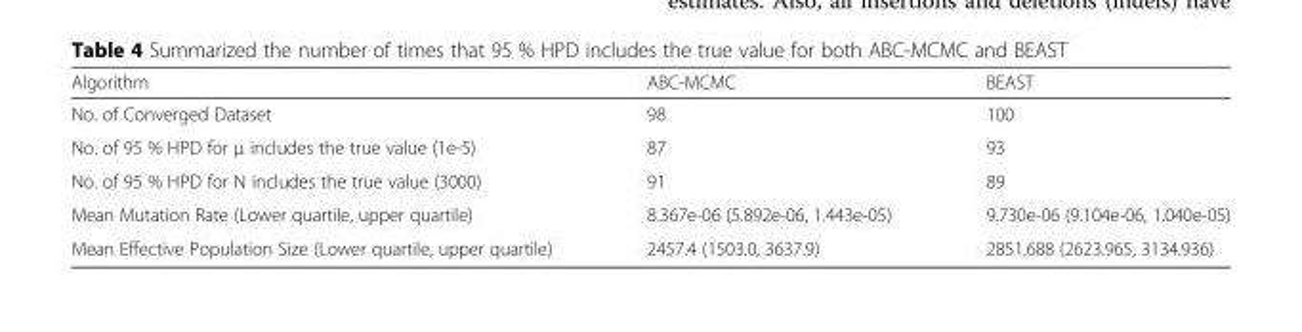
<table><thead><tr><td>Algorithm</td><td>ABC-MCMC</td><td>BEAST</td></tr></thead><tbody><tr><td>No. of Converged Dataset</td><td>98</td><td>100</td></tr><tr><td>No. of 95 % HPD for μ includes the true value (1e-5)</td><td>87</td><td>93</td></tr><tr><td>No. of 95 % HPD for N includes the true value (3000)</td><td>91</td><td>89</td></tr><tr><td>Mean Mutation Rate (Lower quartile, upper quartile)</td><td>8.367e-06 (5.892e-06, 1.443e-05)</td><td>9.730e-06 (9.104e-06, 1.040e-05)</td></tr><tr><td>Mean Effective Population Size (Lower quartile, upper quartile)</td><td>2457.4 (1503.0, 3637.9)</td><td>2851.688 (2623.965, 3134.936)</td></tr></tbody></table>